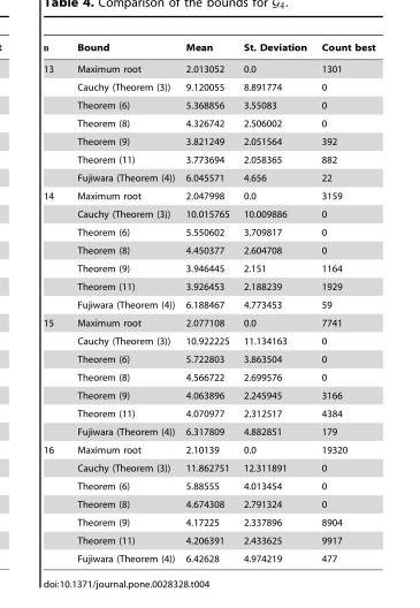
<table><thead><tr><td>n</td><td>Bound</td><td>Mean</td><td>St. Deviation</td><td>Count best</td></tr></thead><tbody><tr><td rowspan="7">13</td><td>Maximum root</td><td>2.013052</td><td>0.0</td><td>1301</td></tr><tr><td>Cauchy (Theorem (3))</td><td>9.120055</td><td>8.891774</td><td>0</td></tr><tr><td>Theorem (6)</td><td>5.368856</td><td>3.55083</td><td>0</td></tr><tr><td>Theorem (8)</td><td>4.326742</td><td>2.506002</td><td>0</td></tr><tr><td>Theorem (9)</td><td>3.821249</td><td>2.051564</td><td>392</td></tr><tr><td>Theorem (11)</td><td>3.773694</td><td>2.058365</td><td>882</td></tr><tr><td>Fujiwara (Theorem (4))</td><td>6.045571</td><td>4.656</td><td>22</td></tr><tr><td rowspan="7">14</td><td>Maximum root</td><td>2.047998</td><td>0.0</td><td>3159</td></tr><tr><td>Cauchy (Theorem (3))</td><td>10.015765</td><td>10.009886</td><td>0</td></tr><tr><td>Theorem (6)</td><td>5.550602</td><td>3.709817</td><td>0</td></tr><tr><td>Theorem (8)</td><td>4.450377</td><td>2.604708</td><td>0</td></tr><tr><td>Theorem (9)</td><td>3.946445</td><td>2.151</td><td>1164</td></tr><tr><td>Theorem (11)</td><td>3.926453</td><td>2.188239</td><td>1929</td></tr><tr><td>Fujiwara (Theorem (4))</td><td>6.188467</td><td>4.773453</td><td>59</td></tr><tr><td rowspan="7">15</td><td>Maximum root</td><td>2.077108</td><td>0.0</td><td>7741</td></tr><tr><td>Cauchy (Theorem (3))</td><td>10.922225</td><td>11.134163</td><td>0</td></tr><tr><td>Theorem (6)</td><td>5.722803</td><td>3.863504</td><td>0</td></tr><tr><td>Theorem (8)</td><td>4.566722</td><td>2.699576</td><td>0</td></tr><tr><td>Theorem (9)</td><td>4.063896</td><td>2.245945</td><td>3166</td></tr><tr><td>Theorem (11)</td><td>4.070977</td><td>2.312517</td><td>4384</td></tr><tr><td>Fujiwara (Theorem (4))</td><td>6.317809</td><td>4.882851</td><td>179</td></tr><tr><td rowspan="7">16</td><td>Maximum root</td><td>2.10139</td><td>0.0</td><td>19320</td></tr><tr><td>Cauchy (Theorem (3))</td><td>11.862751</td><td>12.311891</td><td>0</td></tr><tr><td>Theorem (6)</td><td>5.88555</td><td>4.013454</td><td>0</td></tr><tr><td>Theorem (8)</td><td>4.674308</td><td>2.791324</td><td>0</td></tr><tr><td>Theorem (9)</td><td>4.17225</td><td>2.337896</td><td>8904</td></tr><tr><td>Theorem (11)</td><td>4.206391</td><td>2.433625</td><td>9917</td></tr><tr><td>Fujiwara (Theorem (4))</td><td>6.42628</td><td>4.974219</td><td>477</td></tr></tbody></table>